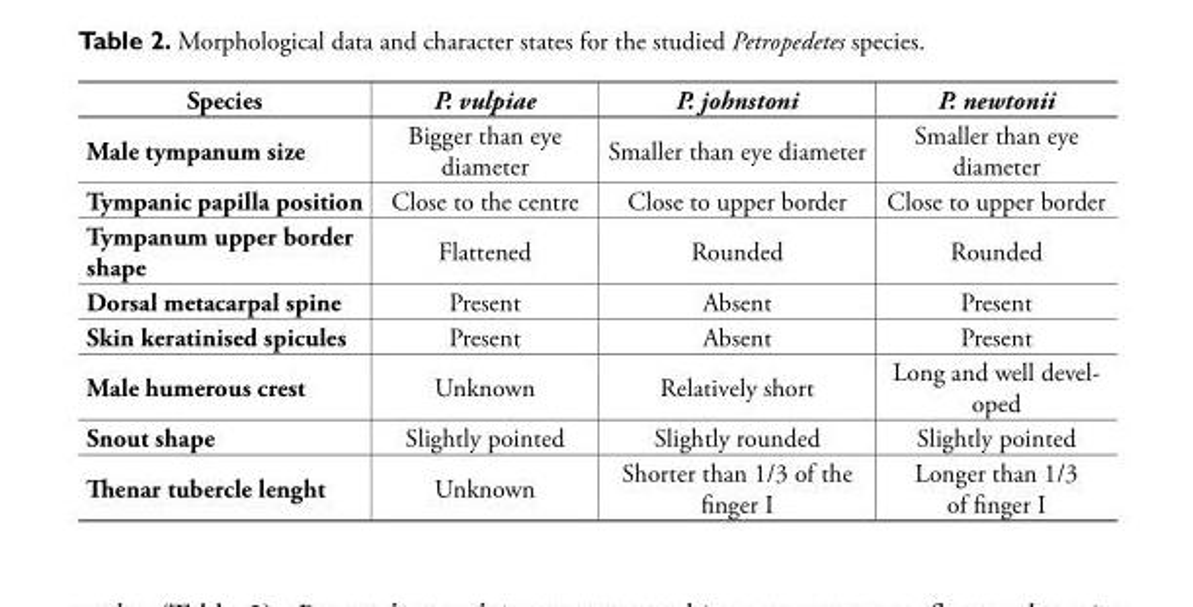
<table><thead><tr><td>Species</td><td>P. vulpiae</td><td>P. johnstoni</td><td>P. newtonii</td></tr></thead><tbody><tr><td>Male tympanum size</td><td>Bigger than eye diameter</td><td>Smaller than eye diameter</td><td>Smaller than eye diameter</td></tr><tr><td>Tympanic papilla position</td><td>Close to the centre</td><td>Close to upper border</td><td>Close to upper border</td></tr><tr><td>Tympanum upper border shape</td><td>Flattened</td><td>Rounded</td><td>Rounded</td></tr><tr><td>Dorsal metacarpal spine</td><td>Present</td><td>Absent</td><td>Present</td></tr><tr><td>Skin keratinised spicules</td><td>Present</td><td>Absent</td><td>Present</td></tr><tr><td>Male humerous crest</td><td>Unknown</td><td>Relatively short</td><td>Long and well devel- oped</td></tr><tr><td>Snout shape</td><td>Slightly pointed</td><td>Slightly rounded</td><td>Slightly pointed</td></tr><tr><td>Thenar tubercle lenght</td><td>Unknown</td><td>Shorter than 1/3 of the finger I</td><td>Longer than 1/3 of finger I</td></tr></tbody></table>